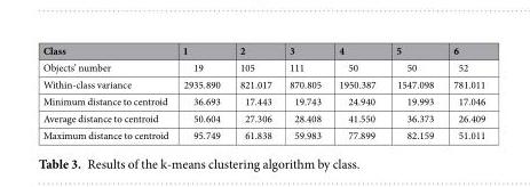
<table><thead><tr><td>Class</td><td>1</td><td>2</td><td>3</td><td>4</td><td>5</td><td>6</td></tr></thead><tbody><tr><td>Objects’ number</td><td>19</td><td>105</td><td>111</td><td>50</td><td>50</td><td>52</td></tr><tr><td>Within-class variance</td><td>2935.890</td><td>821.017</td><td>870.805</td><td>1950.387</td><td>1547.098</td><td>781.011</td></tr><tr><td>Minimum distance to centroid</td><td>36.693</td><td>17.443</td><td>19.743</td><td>24.940</td><td>19.993</td><td>17.046</td></tr><tr><td>Average distance to centroid</td><td>50.604</td><td>27.306</td><td>28.408</td><td>41.550</td><td>36.373</td><td>26.409</td></tr><tr><td>Maximum distance to centroid</td><td>95.749</td><td>61.838</td><td>59.983</td><td>77.899</td><td>82.159</td><td>51.011</td></tr></tbody></table>